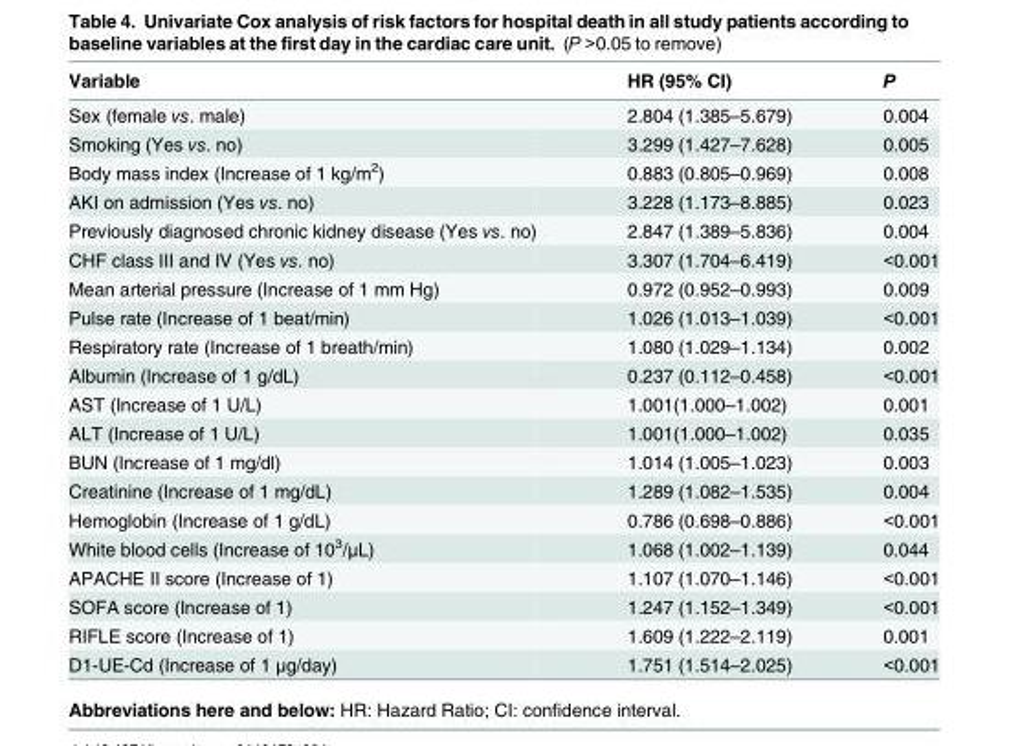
<table><thead><tr><td>Variable</td><td>HR (95% CI)</td><td>P</td></tr></thead><tbody><tr><td>Sex (female vs. male)</td><td>2.804 (1.385–5.679)</td><td>0.004</td></tr><tr><td>Smoking (Yes vs. no)</td><td>3.299 (1.427–7.628)</td><td>0.005</td></tr><tr><td>Body mass index (Increase of 1 kg/m<sup>2</sup>)</td><td>0.883 (0.805–0.969)</td><td>0.008</td></tr><tr><td>AKI on admission (Yes vs. no)</td><td>3.228 (1.173–8.885)</td><td>0.023</td></tr><tr><td>Previously diagnosed chronic kidney disease (Yes vs. no)</td><td>2.847 (1.389–5.836)</td><td>0.004</td></tr><tr><td>CHF class III and IV (Yes vs. no)</td><td>3.307 (1.704–6.419)</td><td>&lt;0.001</td></tr><tr><td>Mean arterial pressure (Increase of 1 mm Hg)</td><td>0.972 (0.952–0.993)</td><td>0.009</td></tr><tr><td>Pulse rate (Increase of 1 beat/min)</td><td>1.026 (1.013–1.039)</td><td>&lt;0.001</td></tr><tr><td>Respiratory rate (Increase of 1 breath/min)</td><td>1.080 (1.029–1.134)</td><td>0.002</td></tr><tr><td>Albumin (Increase of 1 g/dL)</td><td>0.237 (0.112–0.458)</td><td>&lt;0.001</td></tr><tr><td>AST (Increase of 1 U/L)</td><td>1.001(1.000–1.002)</td><td>0.001</td></tr><tr><td>ALT (Increase of 1 U/L)</td><td>1.001(1.000–1.002)</td><td>0.035</td></tr><tr><td>BUN (Increase of 1 mg/dl)</td><td>1.014 (1.005–1.023)</td><td>0.003</td></tr><tr><td>Creatinine (Increase of 1 mg/dL)</td><td>1.289 (1.082–1.535)</td><td>0.004</td></tr><tr><td>Hemoglobin (Increase of 1 g/dL)</td><td>0.786 (0.698–0.886)</td><td>&lt;0.001</td></tr><tr><td>White blood cells (Increase of 10<sup>3</sup>/μL)</td><td>1.068 (1.002–1.139)</td><td>0.044</td></tr><tr><td>APACHE II score (Increase of 1)</td><td>1.107 (1.070–1.146)</td><td>&lt;0.001</td></tr><tr><td>SOFA score (Increase of 1)</td><td>1.247 (1.152–1.349)</td><td>&lt;0.001</td></tr><tr><td>RIFLE score (Increase of 1)</td><td>1.609 (1.222–2.119)</td><td>0.001</td></tr><tr><td>D1-UE-Cd (Increase of 1 μg/day)</td><td>1.751 (1.514–2.025)</td><td>&lt;0.001</td></tr></tbody></table>